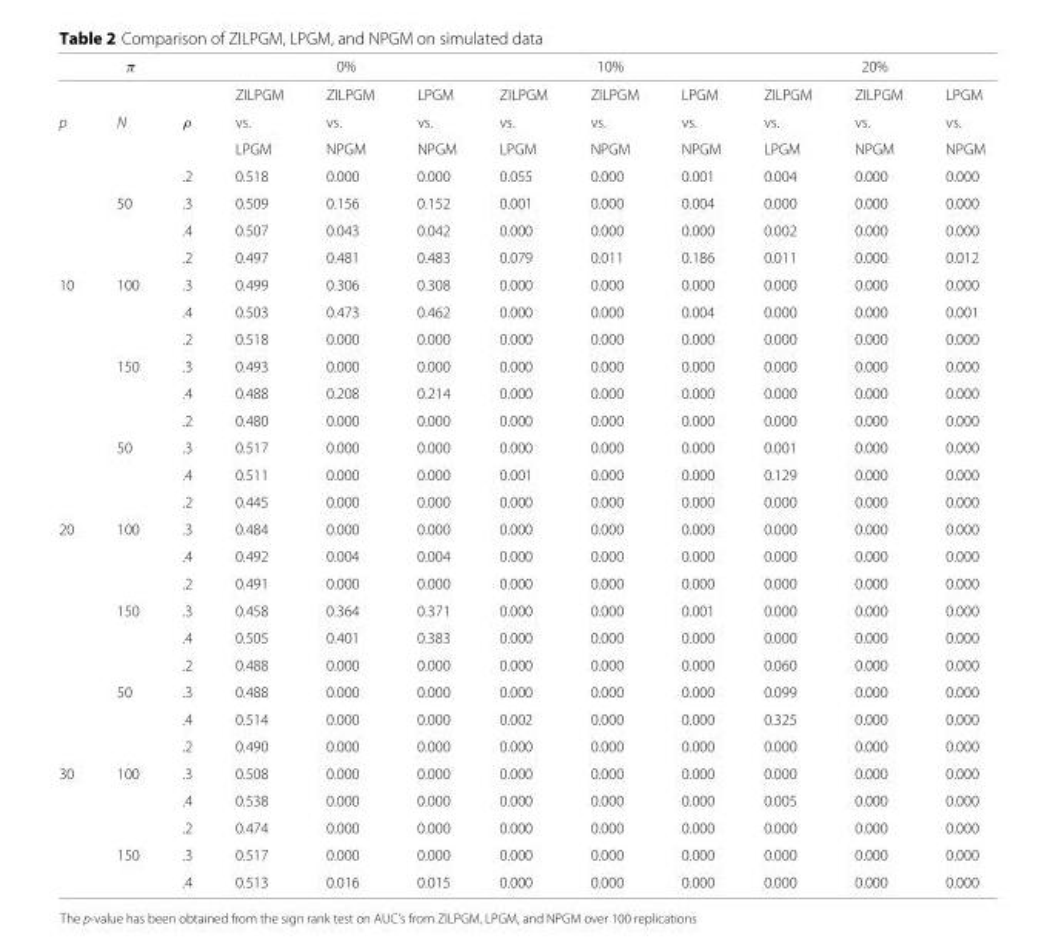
<table><thead><tr><td colspan="3">π</td><td colspan="3">0%</td><td colspan="3">10%</td><td colspan="3">20%</td></tr><tr><td></td><td></td><td></td><td>ZILPGM</td><td>ZILPGM</td><td>LPGM</td><td>ZILPGM</td><td>ZILPGM</td><td>LPGM</td><td>ZILPGM</td><td>ZILPGM</td><td>LPGM</td></tr></thead><tbody><tr><td rowspan="6">p</td><td>N</td><td>ρ</td><td>vs.</td><td>vs.</td><td>vs.</td><td>vs.</td><td>vs.</td><td>vs.</td><td>vs.</td><td>vs.</td><td>vs.</td></tr><tr><td></td><td></td><td>LPGM</td><td>NPGM</td><td>NPGM</td><td>LPGM</td><td>NPGM</td><td>NPGM</td><td>LPGM</td><td>NPGM</td><td>NPGM</td></tr><tr><td></td><td>.2</td><td>0.518</td><td>0.000</td><td>0.000</td><td>0.055</td><td>0.000</td><td>0.001</td><td>0.004</td><td>0.000</td><td>0.000</td></tr><tr><td>50</td><td>.3</td><td>0.509</td><td>0.156</td><td>0.152</td><td>0.001</td><td>0.000</td><td>0.004</td><td>0.000</td><td>0.000</td><td>0.000</td></tr><tr><td></td><td>.4</td><td>0.507</td><td>0.043</td><td>0.042</td><td>0.000</td><td>0.000</td><td>0.000</td><td>0.002</td><td>0.000</td><td>0.000</td></tr><tr><td></td><td>.2</td><td>0.497</td><td>0.481</td><td>0.483</td><td>0.079</td><td>0.011</td><td>0.186</td><td>0.011</td><td>0.000</td><td>0.012</td></tr><tr><td rowspan="9">10</td><td>100</td><td>.3</td><td>0.499</td><td>0.306</td><td>0.308</td><td>0.000</td><td>0.000</td><td>0.000</td><td>0.000</td><td>0.000</td><td>0.000</td></tr><tr><td></td><td>.4</td><td>0.503</td><td>0.473</td><td>0.462</td><td>0.000</td><td>0.000</td><td>0.004</td><td>0.000</td><td>0.000</td><td>0.001</td></tr><tr><td></td><td>.2</td><td>0.518</td><td>0.000</td><td>0.000</td><td>0.000</td><td>0.000</td><td>0.000</td><td>0.000</td><td>0.000</td><td>0.000</td></tr><tr><td>150</td><td>.3</td><td>0.493</td><td>0.000</td><td>0.000</td><td>0.000</td><td>0.000</td><td>0.000</td><td>0.000</td><td>0.000</td><td>0.000</td></tr><tr><td></td><td>.4</td><td>0.488</td><td>0.208</td><td>0.214</td><td>0.000</td><td>0.000</td><td>0.000</td><td>0.000</td><td>0.000</td><td>0.000</td></tr><tr><td></td><td>.2</td><td>0.480</td><td>0.000</td><td>0.000</td><td>0.000</td><td>0.000</td><td>0.000</td><td>0.000</td><td>0.000</td><td>0.000</td></tr><tr><td>50</td><td>.3</td><td>0.517</td><td>0.000</td><td>0.000</td><td>0.000</td><td>0.000</td><td>0.000</td><td>0.001</td><td>0.000</td><td>0.000</td></tr><tr><td></td><td>.4</td><td>0.511</td><td>0.000</td><td>0.000</td><td>0.001</td><td>0.000</td><td>0.000</td><td>0.129</td><td>0.000</td><td>0.000</td></tr><tr><td></td><td>.2</td><td>0.445</td><td>0.000</td><td>0.000</td><td>0.000</td><td>0.000</td><td>0.000</td><td>0.000</td><td>0.000</td><td>0.000</td></tr><tr><td rowspan="9">20</td><td>100</td><td>.3</td><td>0.484</td><td>0.000</td><td>0.000</td><td>0.000</td><td>0.000</td><td>0.000</td><td>0.000</td><td>0.000</td><td>0.000</td></tr><tr><td></td><td>.4</td><td>0.492</td><td>0.004</td><td>0.004</td><td>0.000</td><td>0.000</td><td>0.000</td><td>0.000</td><td>0.000</td><td>0.000</td></tr><tr><td></td><td>.2</td><td>0.491</td><td>0.000</td><td>0.000</td><td>0.000</td><td>0.000</td><td>0.000</td><td>0.000</td><td>0.000</td><td>0.000</td></tr><tr><td>150</td><td>.3</td><td>0.458</td><td>0.364</td><td>0.371</td><td>0.000</td><td>0.000</td><td>0.001</td><td>0.000</td><td>0.000</td><td>0.000</td></tr><tr><td></td><td>.4</td><td>0.505</td><td>0.401</td><td>0.383</td><td>0.000</td><td>0.000</td><td>0.000</td><td>0.000</td><td>0.000</td><td>0.000</td></tr><tr><td></td><td>.2</td><td>0.488</td><td>0.000</td><td>0.000</td><td>0.000</td><td>0.000</td><td>0.000</td><td>0.060</td><td>0.000</td><td>0.000</td></tr><tr><td>50</td><td>.3</td><td>0.488</td><td>0.000</td><td>0.000</td><td>0.000</td><td>0.000</td><td>0.000</td><td>0.099</td><td>0.000</td><td>0.000</td></tr><tr><td></td><td>.4</td><td>0.514</td><td>0.000</td><td>0.000</td><td>0.002</td><td>0.000</td><td>0.000</td><td>0.325</td><td>0.000</td><td>0.000</td></tr><tr><td></td><td>.2</td><td>0.490</td><td>0.000</td><td>0.000</td><td>0.000</td><td>0.000</td><td>0.000</td><td>0.000</td><td>0.000</td><td>0.000</td></tr><tr><td rowspan="5">30</td><td>100</td><td>.3</td><td>0.508</td><td>0.000</td><td>0.000</td><td>0.000</td><td>0.000</td><td>0.000</td><td>0.000</td><td>0.000</td><td>0.000</td></tr><tr><td></td><td>.4</td><td>0.538</td><td>0.000</td><td>0.000</td><td>0.000</td><td>0.000</td><td>0.000</td><td>0.005</td><td>0.000</td><td>0.000</td></tr><tr><td></td><td>.2</td><td>0.474</td><td>0.000</td><td>0.000</td><td>0.000</td><td>0.000</td><td>0.000</td><td>0.000</td><td>0.000</td><td>0.000</td></tr><tr><td>150</td><td>.3</td><td>0.517</td><td>0.000</td><td>0.000</td><td>0.000</td><td>0.000</td><td>0.000</td><td>0.000</td><td>0.000</td><td>0.000</td></tr><tr><td></td><td>.4</td><td>0.513</td><td>0.016</td><td>0.015</td><td>0.000</td><td>0.000</td><td>0.000</td><td>0.000</td><td>0.000</td><td>0.000</td></tr></tbody></table>